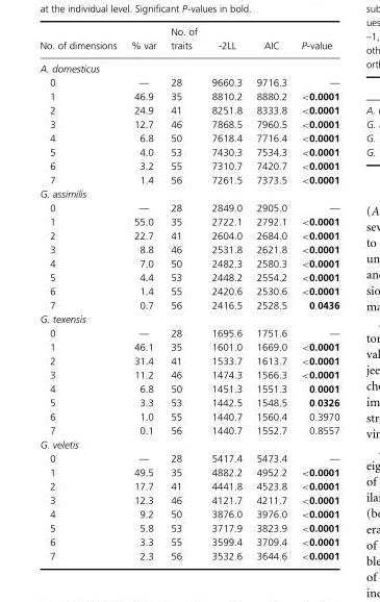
<table><thead><tr><td>No. of dimensions</td><td>% var</td><td>traits</td><td>-2LL</td><td>AIC</td><td>P-value</td></tr></thead><tbody><tr><td colspan="6">A. domesticus</td></tr><tr><td>0</td><td>—</td><td>28</td><td>9660.3</td><td>9716.3</td><td>—</td></tr><tr><td>1</td><td>46.9</td><td>35</td><td>8810.2</td><td>8880.2</td><td>&lt;0.0001</td></tr><tr><td>2</td><td>24.9</td><td>41</td><td>8251.8</td><td>8333.8</td><td>&lt;0.0001</td></tr><tr><td>3</td><td>12.7</td><td>46</td><td>7868.5</td><td>7960.5</td><td>&lt;0.0001</td></tr><tr><td>4</td><td>6.8</td><td>50</td><td>7618.4</td><td>7716.4</td><td>&lt;0.0001</td></tr><tr><td>5</td><td>4.0</td><td>53</td><td>7430.3</td><td>7534.3</td><td>&lt;0.0001</td></tr><tr><td>6</td><td>3.2</td><td>55</td><td>7310.7</td><td>7420.7</td><td>&lt;0.0001</td></tr><tr><td>7</td><td>1.4</td><td>56</td><td>7261.5</td><td>7373.5</td><td>&lt;0.0001</td></tr><tr><td colspan="6">G. assimilis</td></tr><tr><td>0</td><td>—</td><td>28</td><td>2849.0</td><td>2905.0</td><td>—</td></tr><tr><td>1</td><td>55.0</td><td>35</td><td>2722.1</td><td>2792.1</td><td>&lt;0.0001</td></tr><tr><td>2</td><td>22.7</td><td>41</td><td>2604.0</td><td>2684.0</td><td>&lt;0.0001</td></tr><tr><td>3</td><td>8.8</td><td>46</td><td>2531.8</td><td>2621.8</td><td>&lt;0.0001</td></tr><tr><td>4</td><td>7.0</td><td>50</td><td>2482.3</td><td>2580.3</td><td>&lt;0.0001</td></tr><tr><td>5</td><td>4.4</td><td>53</td><td>2448.2</td><td>2554.2</td><td>&lt;0.0001</td></tr><tr><td>6</td><td>1.4</td><td>55</td><td>2420.6</td><td>2530.6</td><td>&lt;0.0001</td></tr><tr><td>7</td><td>0.7</td><td>56</td><td>2416.5</td><td>2528.5</td><td>0.0436</td></tr><tr><td colspan="6">G. texensis</td></tr><tr><td>0</td><td>—</td><td>28</td><td>1695.6</td><td>1751.6</td><td>—</td></tr><tr><td>1</td><td>46.1</td><td>35</td><td>1601.0</td><td>1669.0</td><td>&lt;0.0001</td></tr><tr><td>2</td><td>31.4</td><td>41</td><td>1533.7</td><td>1613.7</td><td>&lt;0.0001</td></tr><tr><td>3</td><td>11.2</td><td>46</td><td>1474.3</td><td>1566.3</td><td>&lt;0.0001</td></tr><tr><td>4</td><td>6.8</td><td>50</td><td>1451.3</td><td>1551.3</td><td>0.0001</td></tr><tr><td>5</td><td>3.3</td><td>53</td><td>1442.5</td><td>1548.5</td><td>0.0326</td></tr><tr><td>6</td><td>1.0</td><td>55</td><td>1440.7</td><td>1560.4</td><td>0.3970</td></tr><tr><td>7</td><td>0.1</td><td>56</td><td>1440.7</td><td>1552.7</td><td>0.8557</td></tr><tr><td colspan="6">G. veletis</td></tr><tr><td>0</td><td>—</td><td>28</td><td>5417.4</td><td>5473.4</td><td>—</td></tr><tr><td>1</td><td>49.5</td><td>35</td><td>4882.2</td><td>4952.2</td><td>&lt;0.0001</td></tr><tr><td>2</td><td>17.7</td><td>41</td><td>4441.8</td><td>4523.8</td><td>&lt;0.0001</td></tr><tr><td>3</td><td>12.3</td><td>46</td><td>4121.7</td><td>4211.7</td><td>&lt;0.0001</td></tr><tr><td>4</td><td>9.2</td><td>50</td><td>3876.0</td><td>3976.0</td><td>&lt;0.0001</td></tr><tr><td>5</td><td>5.8</td><td>53</td><td>3717.9</td><td>3823.9</td><td>&lt;0.0001</td></tr><tr><td>6</td><td>3.3</td><td>55</td><td>3599.4</td><td>3709.4</td><td>&lt;0.0001</td></tr><tr><td>7</td><td>2.3</td><td>56</td><td>3532.6</td><td>3644.6</td><td>&lt;0.0001</td></tr></tbody></table>